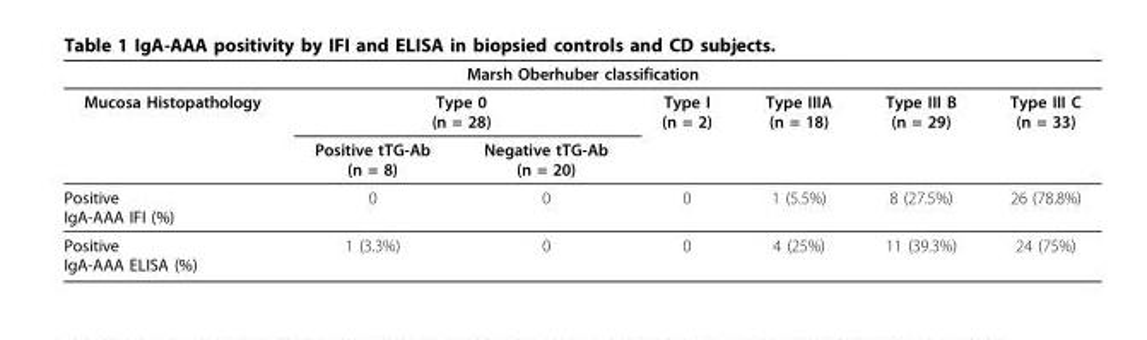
<table><thead><tr><td colspan="7">Marsh Oberhuber classification</td></tr><tr><td rowspan="2">Mucosa Histopathology</td><td colspan="2">Type 0 (n = 28)</td><td rowspan="2">Type I (n = 2)</td><td rowspan="2">Type IIIA (n = 18)</td><td rowspan="2">Type III B (n = 29)</td><td rowspan="2">Type III C (n = 33)</td></tr><tr><td>Positive tTG-Ab (n = 8)</td><td>Negative tTG-Ab (n = 20)</td></tr></thead><tbody><tr><td>Positive IgA-AAA IFI (%)</td><td>0</td><td>0</td><td>0</td><td>1 (5.5%)</td><td>8 (27.5%)</td><td>26 (78.8%)</td></tr><tr><td>Positive IgA-AAA ELISA (%)</td><td>1 (3.3%)</td><td>0</td><td>0</td><td>4 (25%)</td><td>11 (39.3%)</td><td>24 (75%)</td></tr></tbody></table>